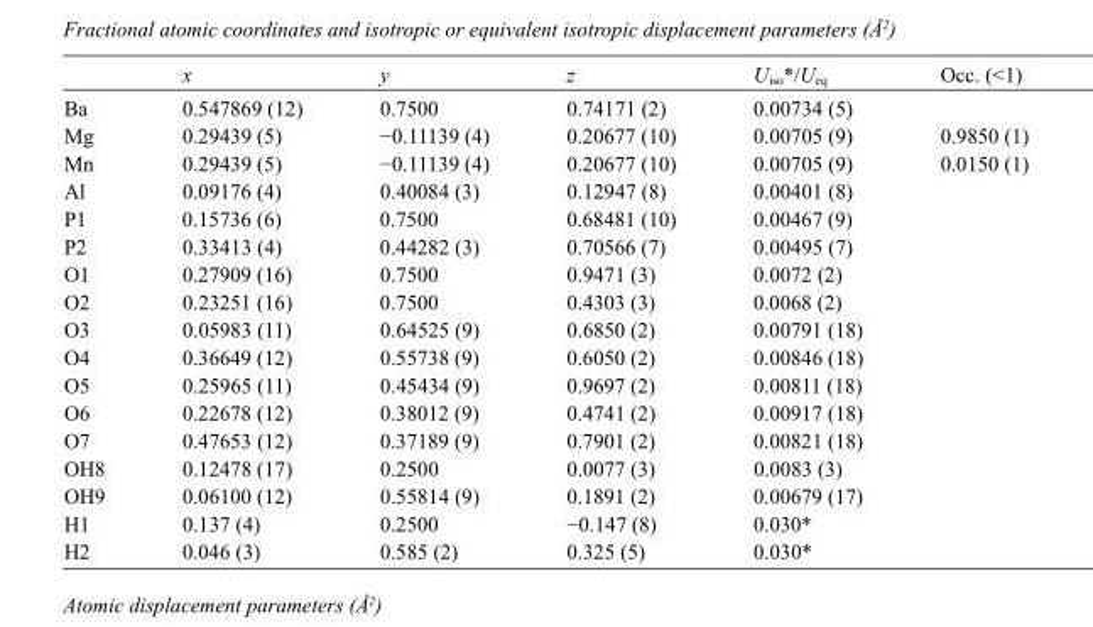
<table><thead><tr><td></td><td>x</td><td>y</td><td>z</td><td>U<sub>iso</sub>*/U<sub>eq</sub></td><td>Occ. (&lt;1)</td></tr></thead><tbody><tr><td>Ba</td><td>0.547869 (12)</td><td>0.7500</td><td>0.74171 (2)</td><td>0.00734 (5)</td><td></td></tr><tr><td>Mg</td><td>0.29439 (5)</td><td>−0.11139 (4)</td><td>0.20677 (10)</td><td>0.00705 (9)</td><td>0.9850 (1)</td></tr><tr><td>Mn</td><td>0.29439 (5)</td><td>−0.11139 (4)</td><td>0.20677 (10)</td><td>0.00705 (9)</td><td>0.0150 (1)</td></tr><tr><td>Al</td><td>0.09176 (4)</td><td>0.40084 (3)</td><td>0.12947 (8)</td><td>0.00401 (8)</td><td></td></tr><tr><td>P1</td><td>0.15736 (6)</td><td>0.7500</td><td>0.68481 (10)</td><td>0.00467 (9)</td><td></td></tr><tr><td>P2</td><td>0.33413 (4)</td><td>0.44282 (3)</td><td>0.70566 (7)</td><td>0.00495 (7)</td><td></td></tr><tr><td>O1</td><td>0.27909 (16)</td><td>0.7500</td><td>0.9471 (3)</td><td>0.0072 (2)</td><td></td></tr><tr><td>O2</td><td>0.23251 (16)</td><td>0.7500</td><td>0.4303 (3)</td><td>0.0068 (2)</td><td></td></tr><tr><td>O3</td><td>0.05983 (11)</td><td>0.64525 (9)</td><td>0.6850 (2)</td><td>0.00791 (18)</td><td></td></tr><tr><td>O4</td><td>0.36649 (12)</td><td>0.55738 (9)</td><td>0.6050 (2)</td><td>0.00846 (18)</td><td></td></tr><tr><td>O5</td><td>0.25965 (11)</td><td>0.45434 (9)</td><td>0.9697 (2)</td><td>0.00811 (18)</td><td></td></tr><tr><td>O6</td><td>0.22678 (12)</td><td>0.38012 (9)</td><td>0.4741 (2)</td><td>0.00917 (18)</td><td></td></tr><tr><td>O7</td><td>0.47653 (12)</td><td>0.37189 (9)</td><td>0.7901 (2)</td><td>0.00821 (18)</td><td></td></tr><tr><td>OH8</td><td>0.12478 (17)</td><td>0.2500</td><td>0.0077 (3)</td><td>0.0083 (3)</td><td></td></tr><tr><td>OH9</td><td>0.06100 (12)</td><td>0.55814 (9)</td><td>0.1891 (2)</td><td>0.00679 (17)</td><td></td></tr><tr><td>H1</td><td>0.137 (4)</td><td>0.2500</td><td>−0.147 (8)</td><td>0.030*</td><td></td></tr><tr><td>H2</td><td>0.046 (3)</td><td>0.585 (2)</td><td>0.325 (5)</td><td>0.030*</td><td></td></tr></tbody></table>